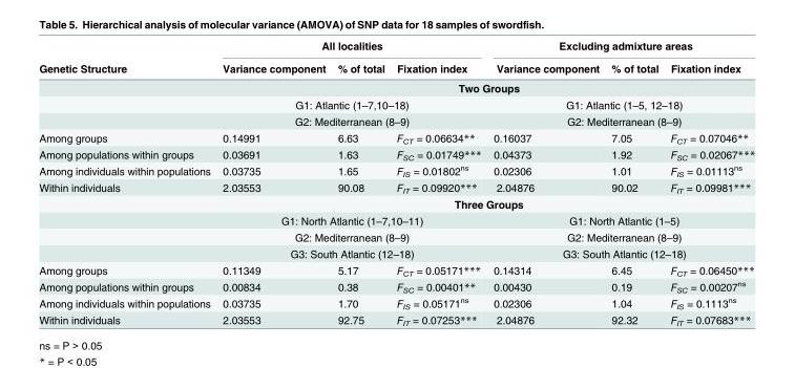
<table><thead><tr><td rowspan="2">Genetic Structure</td><td colspan="3">All localities</td><td colspan="3">Excluding admixture areas</td></tr><tr><td>Variance component</td><td>% of total</td><td>Fixation index</td><td>Variance component</td><td>% of total</td><td>Fixation index</td></tr></thead><tbody><tr><td></td><td colspan="6">Two Groups</td></tr><tr><td></td><td colspan="3">G1: Atlantic (1–7,10–18)</td><td colspan="3">G1: Atlantic (1–5, 12–18)</td></tr><tr><td></td><td colspan="3">G2: Mediterranean (8–9)</td><td colspan="3">G2: Mediterranean (8–9)</td></tr><tr><td>Among groups</td><td>0.14991</td><td>6.63</td><td>F<sub>CT</sub> = 0.06634**</td><td>0.16037</td><td>7.05</td><td>F<sub>CT</sub> = 0.07046**</td></tr><tr><td>Among populations within groups</td><td>0.03691</td><td>1.63</td><td>F<sub>SC</sub> = 0.01749***</td><td>0.04373</td><td>1.92</td><td>F<sub>SC</sub> = 0.02067***</td></tr><tr><td>Among individuals within populations</td><td>0.03735</td><td>1.65</td><td>F<sub>IS</sub> = 0.01802<sup>ns</sup></td><td>0.02306</td><td>1.01</td><td>F<sub>IS</sub> = 0.01113<sup>ns</sup></td></tr><tr><td rowspan="5">Within individuals</td><td>2.03553</td><td>90.08</td><td>F<sub>IT</sub> = 0.09920***</td><td>2.04876</td><td>90.02</td><td>F<sub>IT</sub> = 0.09981***</td></tr><tr><td colspan="6">Three Groups</td></tr><tr><td colspan="3">G1: North Atlantic (1–7,10–11)</td><td colspan="3">G1: North Atlantic (1–5)</td></tr><tr><td colspan="3">G2: Mediterranean (8–9)</td><td colspan="3">G2: Mediterranean (8–9)</td></tr><tr><td colspan="3">G3: South Atlantic (12–18)</td><td colspan="3">G3: South Atlantic (12–18)</td></tr><tr><td>Among groups</td><td>0.11349</td><td>5.17</td><td>F<sub>CT</sub> = 0.05171***</td><td>0.14314</td><td>6.45</td><td>F<sub>CT</sub> = 0.06450***</td></tr><tr><td>Among populations within groups</td><td>0.00834</td><td>0.38</td><td>F<sub>SC</sub> = 0.00401**</td><td>0.00430</td><td>0.19</td><td>F<sub>SC</sub> = 0.00207<sup>ns</sup></td></tr><tr><td>Among individuals within populations</td><td>0.03735</td><td>1.70</td><td>F<sub>IS</sub> = 0.05171<sup>ns</sup></td><td>0.02306</td><td>1.04</td><td>F<sub>IS</sub> = 0.1113<sup>ns</sup></td></tr><tr><td>Within individuals</td><td>2.03553</td><td>92.75</td><td>F<sub>IT</sub> = 0.07253***</td><td>2.04876</td><td>92.32</td><td>F<sub>IT</sub> = 0.07683***</td></tr></tbody></table>